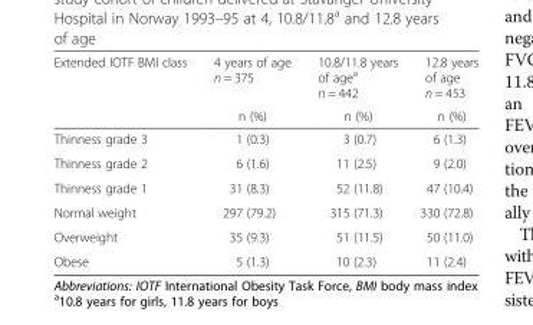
<table><thead><tr><td rowspan="2">Extended IOTF BMI class</td><td rowspan="2">4 years of age n = 375 n (%)</td><td rowspan="2">10.8/11.8 years of age<sup>a</sup> n = 442 n (%)</td><td rowspan="2">12.8 years of age n = 453 n (%)</td></tr><tr></tr></thead><tbody><tr><td>Thinness grade 3</td><td>1 (0.3)</td><td>3 (0.7)</td><td>6 (1.3)</td></tr><tr><td>Thinness grade 2</td><td>6 (1.6)</td><td>11 (2.5)</td><td>9 (2.0)</td></tr><tr><td>Thinness grade 1</td><td>31 (8.3)</td><td>52 (11.8)</td><td>47 (10.4)</td></tr><tr><td>Normal weight</td><td>297 (79.2)</td><td>315 (71.3)</td><td>330 (72.8)</td></tr><tr><td>Overweight</td><td>35 (9.3)</td><td>51 (11.5)</td><td>50 (11.0)</td></tr><tr><td>Obese</td><td>5 (1.3)</td><td>10 (2.3)</td><td>11 (2.4)</td></tr></tbody></table>